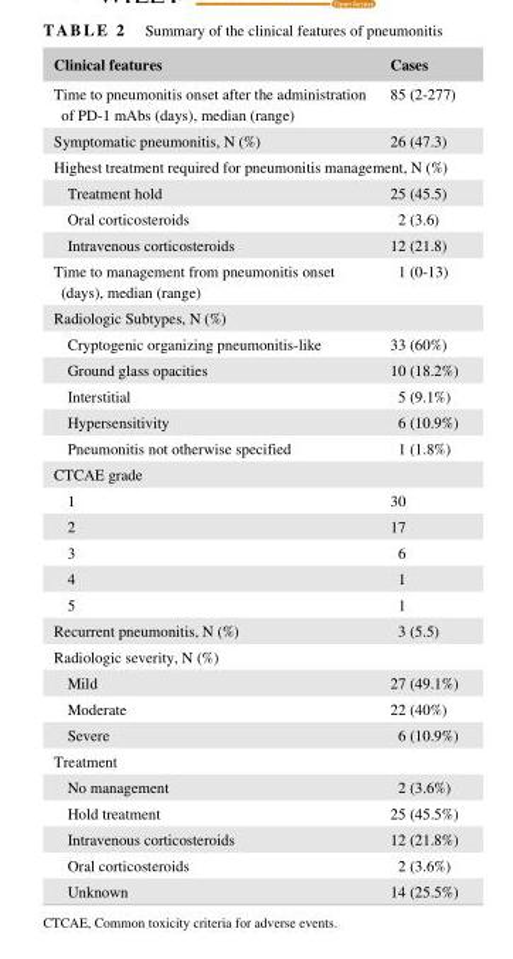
<table><thead><tr><td>Clinical features</td><td>Cases</td></tr></thead><tbody><tr><td>Time to pneumonitis onset after the administration of PD- 1 mAbs (days), median (range)</td><td>85 (2- 277)</td></tr><tr><td>Symptomatic pneumonitis, N (%)</td><td>26 (47.3)</td></tr><tr><td colspan="2">Highest treatment required for pneumonitis management, N (%)</td></tr><tr><td>Treatment hold</td><td>25 (45.5)</td></tr><tr><td>Oral corticosteroids</td><td>2 (3.6)</td></tr><tr><td>Intravenous corticosteroids</td><td>12 (21.8)</td></tr><tr><td>Time to management from pneumonitis onset (days), median (range)</td><td>1 (0- 13)</td></tr><tr><td colspan="2">Radiologic Subtypes, N (%)</td></tr><tr><td>Cryptogenic organizing pneumonitis- like</td><td>33 (60%)</td></tr><tr><td>Ground glass opacities</td><td>10 (18.2%)</td></tr><tr><td>Interstitial</td><td>5 (9.1%)</td></tr><tr><td>Hypersensitivity</td><td>6 (10.9%)</td></tr><tr><td>Pneumonitis not otherwise specified</td><td>1 (1.8%)</td></tr><tr><td colspan="2">CTCAE grade</td></tr><tr><td>1</td><td>30</td></tr><tr><td>2</td><td>17</td></tr><tr><td>3</td><td>6</td></tr><tr><td>4</td><td>1</td></tr><tr><td>5</td><td>1</td></tr><tr><td>Recurrent pneumonitis, N (%)</td><td>3 (5.5)</td></tr><tr><td colspan="2">Radiologic severity, N (%)</td></tr><tr><td>Mild</td><td>27 (49.1%)</td></tr><tr><td>Moderate</td><td>22 (40%)</td></tr><tr><td>Severe</td><td>6 (10.9%)</td></tr><tr><td colspan="2">Treatment</td></tr><tr><td>No management</td><td>2 (3.6%)</td></tr><tr><td>Hold treatment</td><td>25 (45.5%)</td></tr><tr><td>Intravenous corticosteroids</td><td>12 (21.8%)</td></tr><tr><td>Oral corticosteroids</td><td>2 (3.6%)</td></tr><tr><td>Unknown</td><td>14 (25.5%)</td></tr></tbody></table>